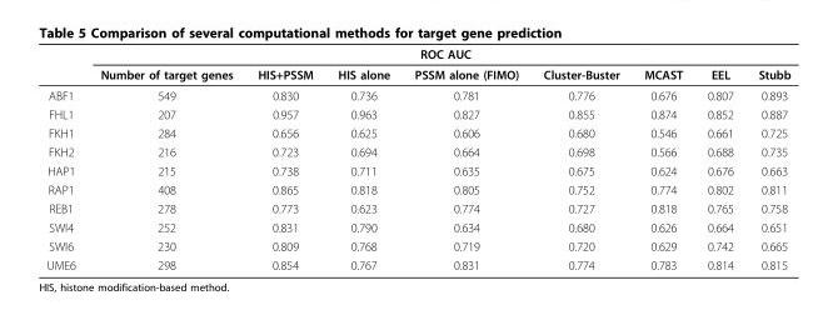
<table><thead><tr><td rowspan="2"></td><td colspan="8">ROC AUC</td></tr><tr><td>Number of target genes</td><td>HIS+PSSM</td><td>HIS alone</td><td>PSSM alone (FIMO)</td><td>Cluster-Buster</td><td>MCAST</td><td>EEL</td><td>Stubb</td></tr></thead><tbody><tr><td>ABF1</td><td>549</td><td>0.830</td><td>0.736</td><td>0.781</td><td>0.776</td><td>0.676</td><td>0.807</td><td>0.893</td></tr><tr><td>FHL1</td><td>207</td><td>0.957</td><td>0.963</td><td>0.827</td><td>0.855</td><td>0.874</td><td>0.852</td><td>0.887</td></tr><tr><td>FKH1</td><td>284</td><td>0.656</td><td>0.625</td><td>0.606</td><td>0.680</td><td>0.546</td><td>0.661</td><td>0.725</td></tr><tr><td>FKH2</td><td>216</td><td>0.723</td><td>0.694</td><td>0.664</td><td>0.698</td><td>0.566</td><td>0.688</td><td>0.735</td></tr><tr><td>HAP1</td><td>215</td><td>0.738</td><td>0.711</td><td>0.635</td><td>0.675</td><td>0.624</td><td>0.676</td><td>0.663</td></tr><tr><td>RAP1</td><td>408</td><td>0.865</td><td>0.818</td><td>0.805</td><td>0.752</td><td>0.774</td><td>0.802</td><td>0.811</td></tr><tr><td>REB1</td><td>278</td><td>0.773</td><td>0.623</td><td>0.774</td><td>0.727</td><td>0.818</td><td>0.765</td><td>0.758</td></tr><tr><td>SWI4</td><td>252</td><td>0.831</td><td>0.790</td><td>0.634</td><td>0.680</td><td>0.626</td><td>0.664</td><td>0.651</td></tr><tr><td>SWI6</td><td>230</td><td>0.809</td><td>0.768</td><td>0.719</td><td>0.720</td><td>0.629</td><td>0.742</td><td>0.665</td></tr><tr><td>UME6</td><td>298</td><td>0.854</td><td>0.767</td><td>0.831</td><td>0.774</td><td>0.783</td><td>0.814</td><td>0.815</td></tr></tbody></table>